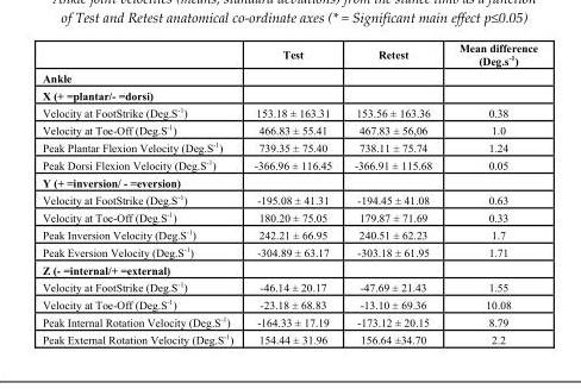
<table><thead><tr><td></td><td>Test</td><td>Retest</td><td>Mean difference (Deg.s<sup>-1</sup>)</td></tr></thead><tbody><tr><td colspan="4">Ankle</td></tr><tr><td colspan="4">X (+ =plantar/- =dorsi)</td></tr><tr><td>Velocity at FootStrike (Deg.S<sup>-1</sup>)</td><td>153.18 ± 163.31</td><td>153.56 ± 163.36</td><td>0.38</td></tr><tr><td>Velocity at Toe-Off (Deg.S<sup>-1</sup>)</td><td>466.83 ± 55.41</td><td>467.83 ± 56,06</td><td>1.0</td></tr><tr><td>Peak Plantar Flexion Velocity (Deg.S<sup>-1</sup>)</td><td>739.35 ± 75.40</td><td>738.11 ± 75.74</td><td>1.24</td></tr><tr><td>Peak Dorsi Flexion Velocity (Deg.S<sup>-1</sup>)</td><td>-366.96 ± 116.45</td><td>-366.91 ± 115.68</td><td>0.05</td></tr><tr><td colspan="4">Y (+ =inversion/ - =eversion)</td></tr><tr><td>Velocity at FootStrike (Deg.S<sup>-1</sup>)</td><td>-195.08 ± 41.31</td><td>-194.45 ± 41.08</td><td>0.63</td></tr><tr><td>Velocity at Toe-Off (Deg.S<sup>-1</sup>)</td><td>180.20 ± 75.05</td><td>179.87 ± 71.69</td><td>0.33</td></tr><tr><td>Peak Inversion Velocity (Deg.S<sup>-1</sup>)</td><td>242.21 ± 66.95</td><td>240.51 ± 62.23</td><td>1.7</td></tr><tr><td>Peak Eversion Velocity (Deg.S<sup>-1</sup>)</td><td>-304.89 ± 63.17</td><td>-303.18 ± 61.95</td><td>1.71</td></tr><tr><td colspan="4">Z (- =internal/+ =external)</td></tr><tr><td>Velocity at FootStrike (Deg.S<sup>-1</sup>)</td><td>-46.14 ± 20.17</td><td>-47.69 ± 21.43</td><td>1.55</td></tr><tr><td>Velocity at Toe-Off (Deg.S<sup>-1</sup>)</td><td>-23.18 ± 68.83</td><td>-13.10 ± 69.36</td><td>10.08</td></tr><tr><td>Peak Internal Rotation Velocity (Deg.S<sup>-1</sup>)</td><td>-164.33 ± 17.19</td><td>-173.12 ± 20.15</td><td>8.79</td></tr><tr><td>Peak External Rotation Velocity (Deg.S<sup>-1</sup>)</td><td>154.44 ± 31.96</td><td>156.64 ±34.70</td><td>2.2</td></tr></tbody></table>